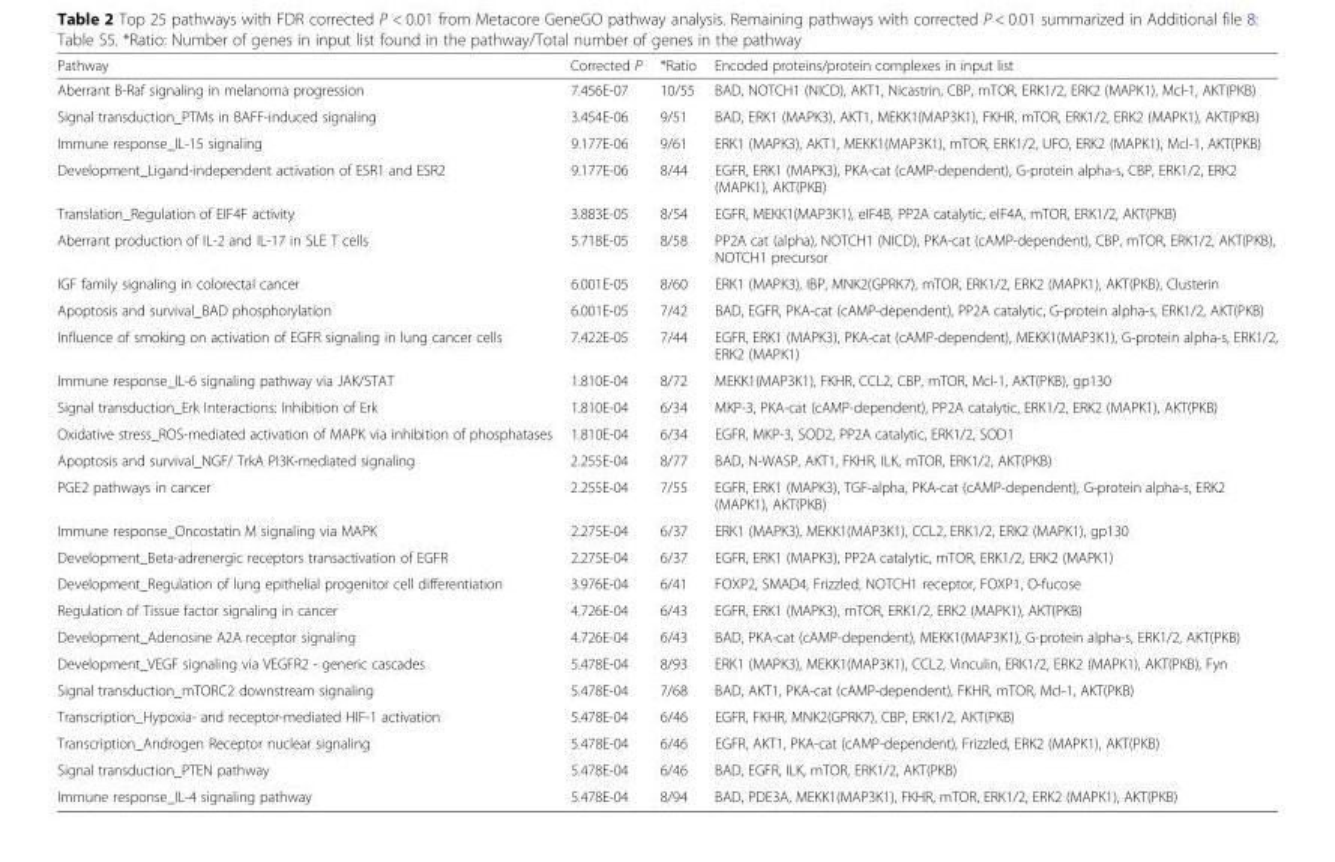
<table><thead><tr><td>Pathway</td><td>Corrected P</td><td>*Ratio</td><td>Encoded proteins/protein complexes in input list</td></tr></thead><tbody><tr><td>Aberrant B-Raf signaling in melanoma progression</td><td>7.456E-07</td><td>10/55</td><td>BAD, NOTCH1 (NICD), AKT1, Nicastrin, CBP, mTOR, ERK1/2, ERK2 (MAPK1), Mcl-1, AKT(PKB)</td></tr><tr><td>Signal transduction_PTMs in BAFF-induced signaling</td><td>3.454E-06</td><td>9/51</td><td>BAD, ERK1 (MAPK3), AKT1, MEKK1(MAP3K1), FKHR, mTOR, ERK1/2, ERK2 (MAPK1), AKT(PKB)</td></tr><tr><td>Immune response_IL-15 signaling</td><td>9.177E-06</td><td>9/61</td><td>ERK1 (MAPK3), AKT1, MEKK1(MAP3K1), mTOR, ERK1/2, UFO, ERK2 (MAPK1), Mcl-1, AKT(PKB)</td></tr><tr><td>Development_Ligand-independent activation of ESR1 and ESR2</td><td>9.177E-06</td><td>8/44</td><td>EGFR, ERK1 (MAPK3), PKA-cat (cAMP-dependent), G-protein alpha-s, CBP, ERK1/2, ERK2 (MAPK1), AKT(PKB)</td></tr><tr><td>Translation_Regulation of EIF4F activity</td><td>3.883E-05</td><td>8/54</td><td>EGFR, MEKK1(MAP3K1), eIF4B, PP2A catalytic, eIF4A, mTOR, ERK1/2, AKT(PKB)</td></tr><tr><td>Aberrant production of IL-2 and IL-17 in SLE T cells</td><td>5.718E-05</td><td>8/58</td><td>PP2A cat (alpha), NOTCH1 (NICD), PKA-cat (cAMP-dependent), CBP, mTOR, ERK1/2, AKT(PKB), NOTCH1 precursor</td></tr><tr><td>IGF family signaling in colorectal cancer</td><td>6.001E-05</td><td>8/60</td><td>ERK1 (MAPK3), IBP, MNK2(GPRK7), mTOR, ERK1/2, ERK2 (MAPK1), AKT(PKB), Clusterin</td></tr><tr><td>Apoptosis and survival_BAD phosphorylation</td><td>6.001E-05</td><td>7/42</td><td>BAD, EGFR, PKA-cat (cAMP-dependent), PP2A catalytic, G-protein alpha-s, ERK1/2, AKT(PKB)</td></tr><tr><td>Influence of smoking on activation of EGFR signaling in lung cancer cells</td><td>7.422E-05</td><td>7/44</td><td>EGFR, ERK1 (MAPK3), PKA-cat (cAMP-dependent), MEKK1(MAP3K1), G-protein alpha-s, ERK1/2, ERK2 (MAPK1)</td></tr><tr><td>Immune response_IL-6 signaling pathway via JAK/STAT</td><td>1.810E-04</td><td>8/72</td><td>MEKK1(MAP3K1), FKHR, CCL2, CBP, mTOR, Mcl-1, AKT(PKB), gp130</td></tr><tr><td>Signal transduction_Erk Interactions: Inhibition of Erk</td><td>1.810E-04</td><td>6/34</td><td>MKP-3, PKA-cat (cAMP-dependent), PP2A catalytic, ERK1/2, ERK2 (MAPK1), AKT(PKB)</td></tr><tr><td>Oxidative stress_ROS-mediated activation of MAPK via inhibition of phosphatases</td><td>1.810E-04</td><td>6/34</td><td>EGFR, MKP-3, SOD2, PP2A catalytic, ERK1/2, SOD1</td></tr><tr><td>Apoptosis and survival_NGF/ TrkA PI3K-mediated signaling</td><td>2.255E-04</td><td>8/77</td><td>BAD, N-WASP, AKT1, FKHR, ILK, mTOR, ERK1/2, AKT(PKB)</td></tr><tr><td>PGE2 pathways in cancer</td><td>2.255E-04</td><td>7/55</td><td>EGFR, ERK1 (MAPK3), TGF-alpha, PKA-cat (cAMP-dependent), G-protein alpha-s, ERK2 (MAPK1), AKT(PKB)</td></tr><tr><td>Immune response_Oncostatin M signaling via MAPK</td><td>2.275E-04</td><td>6/37</td><td>ERK1 (MAPK3), MEKK1(MAP3K1), CCL2, ERK1/2, ERK2 (MAPK1), gp130</td></tr><tr><td>Development_Beta-adrenergic receptors transactivation of EGFR</td><td>2.275E-04</td><td>6/37</td><td>EGFR, ERK1 (MAPK3), PP2A catalytic, mTOR, ERK1/2, ERK2 (MAPK1)</td></tr><tr><td>Development_Regulation of lung epithelial progenitor cell differentiation</td><td>3.976E-04</td><td>6/41</td><td>FOXP2, SMAD4, Frizzled, NOTCH1 receptor, FOXP1, O-fucose</td></tr><tr><td>Regulation of Tissue factor signaling in cancer</td><td>4.726E-04</td><td>6/43</td><td>EGFR, ERK1 (MAPK3), mTOR, ERK1/2, ERK2 (MAPK1), AKT(PKB)</td></tr><tr><td>Development_Adenosine A2A receptor signaling</td><td>4.726E-04</td><td>6/43</td><td>BAD, PKA-cat (cAMP-dependent), MEKK1(MAP3K1), G-protein alpha-s, ERK1/2, AKT(PKB)</td></tr><tr><td>Development_VEGF signaling via VEGFR2 - generic cascades</td><td>5.478E-04</td><td>8/93</td><td>ERK1 (MAPK3), MEKK1(MAP3K1), CCL2, Vinculin, ERK1/2, ERK2 (MAPK1), AKT(PKB), Fyn</td></tr><tr><td>Signal transduction_mTORC2 downstream signaling</td><td>5.478E-04</td><td>7/68</td><td>BAD, AKT1, PKA-cat (cAMP-dependent), FKHR, mTOR, Mcl-1, AKT(PKB)</td></tr><tr><td>Transcription_Hypoxia- and receptor-mediated HIF-1 activation</td><td>5.478E-04</td><td>6/46</td><td>EGFR, FKHR, MNK2(GPRK7), CBP, ERK1/2, AKT(PKB)</td></tr><tr><td>Transcription_Androgen Receptor nuclear signaling</td><td>5.478E-04</td><td>6/46</td><td>EGFR, AKT1, PKA-cat (cAMP-dependent), Frizzled, ERK2 (MAPK1), AKT(PKB)</td></tr><tr><td>Signal transduction_PTEN pathway</td><td>5.478E-04</td><td>6/46</td><td>BAD, EGFR, ILK, mTOR, ERK1/2, AKT(PKB)</td></tr><tr><td>Immune response_IL-4 signaling pathway</td><td>5.478E-04</td><td>8/94</td><td>BAD, PDE3A, MEKK1(MAP3K1), FKHR, mTOR, ERK1/2, ERK2 (MAPK1), AKT(PKB)</td></tr></tbody></table>